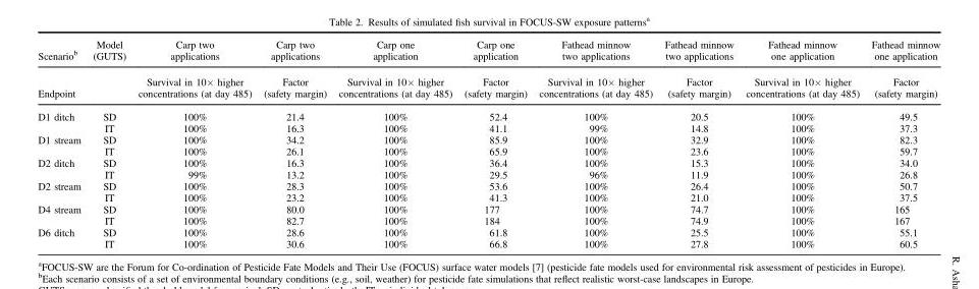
<table><thead><tr><td rowspan="2">Scenariob Endpoint</td><td rowspan="2">Model (GUTS)</td><td rowspan="2">Carp two applications Survival in 10× higher concentrations (at day 485)</td><td rowspan="2">Carp two applications Factor (safety margin)</td><td rowspan="2">Carp one application Survival in 10× higher concentrations (at day 485)</td><td rowspan="2">Carp one application Factor (safety margin)</td><td rowspan="2">Fathead minnow two applications Survival in 10× higher concentrations (at day 485)</td><td rowspan="2">Fathead minnow two applications Factor (safety margin)</td><td rowspan="2">Fathead minnow one application Survival in 10× higher concentrations (at day 485)</td><td rowspan="2">Fathead minnow one application Factor (safety margin)</td></tr><tr></tr></thead><tbody><tr><td rowspan="2">D1 ditch</td><td>SD</td><td>100%</td><td>21.4</td><td>100%</td><td>52.4</td><td>100%</td><td>20.5</td><td>100%</td><td>49.5</td></tr><tr><td>IT</td><td>100%</td><td>16.3</td><td>100%</td><td>41.1</td><td>99%</td><td>14.8</td><td>100%</td><td>37.3</td></tr><tr><td rowspan="2">D1 stream</td><td>SD</td><td>100%</td><td>34.2</td><td>100%</td><td>85.9</td><td>100%</td><td>32.9</td><td>100%</td><td>82.3</td></tr><tr><td>IT</td><td>100%</td><td>26.1</td><td>100%</td><td>65.9</td><td>100%</td><td>23.6</td><td>100%</td><td>59.7</td></tr><tr><td rowspan="2">D2 ditch</td><td>SD</td><td>100%</td><td>16.3</td><td>100%</td><td>36.4</td><td>100%</td><td>15.3</td><td>100%</td><td>34.0</td></tr><tr><td>IT</td><td>99%</td><td>13.2</td><td>100%</td><td>29.5</td><td>96%</td><td>11.9</td><td>100%</td><td>26.8</td></tr><tr><td rowspan="2">D2 stream</td><td>SD</td><td>100%</td><td>28.3</td><td>100%</td><td>53.6</td><td>100%</td><td>26.4</td><td>100%</td><td>50.7</td></tr><tr><td>IT</td><td>100%</td><td>23.2</td><td>100%</td><td>41.3</td><td>100%</td><td>21.0</td><td>100%</td><td>37.5</td></tr><tr><td rowspan="2">D4 stream</td><td>SD</td><td>100%</td><td>80.0</td><td>100%</td><td>177</td><td>100%</td><td>74.7</td><td>100%</td><td>165</td></tr><tr><td>IT</td><td>100%</td><td>82.7</td><td>100%</td><td>184</td><td>100%</td><td>74.9</td><td>100%</td><td>167</td></tr><tr><td rowspan="2">D6 ditch</td><td>SD</td><td>100%</td><td>28.6</td><td>100%</td><td>61.8</td><td>100%</td><td>25.5</td><td>100%</td><td>55.1</td></tr><tr><td>IT</td><td>100%</td><td>30.6</td><td>100%</td><td>66.8</td><td>100%</td><td>27.8</td><td>100%</td><td>60.5</td></tr></tbody></table>